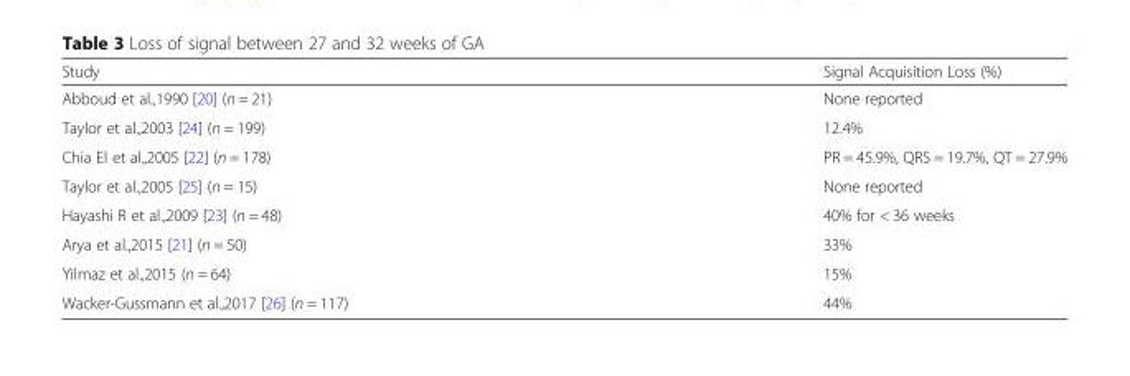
<table><thead><tr><td>Study</td><td>Signal Acquisition Loss (%)</td></tr></thead><tbody><tr><td>Abboud et al.,1990 [20] (n = 21)</td><td>None reported</td></tr><tr><td>Taylor et al.,2003 [24] (n = 199)</td><td>12.4%</td></tr><tr><td>Chia El et al.,2005 [22] (n = 178)</td><td>PR = 45.9%, QRS = 19.7%, QT = 27.9%</td></tr><tr><td>Taylor et al.,2005 [25] (n = 15)</td><td>None reported</td></tr><tr><td>Hayashi R et al.,2009 [23] (n = 48)</td><td>40% for &lt; 36 weeks</td></tr><tr><td>Arya et al.,2015 [21] (n = 50)</td><td>33%</td></tr><tr><td>Yilmaz et al.,2015 (n = 64)</td><td>15%</td></tr><tr><td>Wacker-Gussmann et al.,2017 [26] (n = 117)</td><td>44%</td></tr></tbody></table>